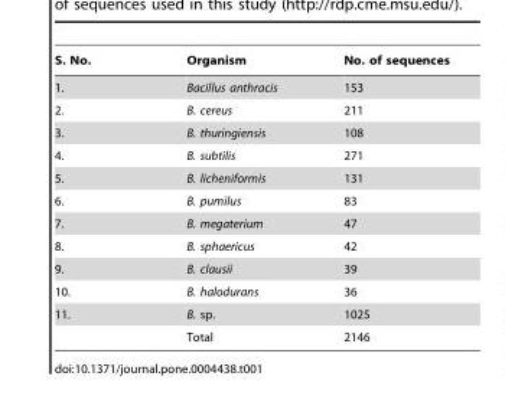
<table><thead><tr><td>S. No.</td><td>Organism</td><td>No. of sequences</td></tr></thead><tbody><tr><td>1.</td><td>Bacillus anthracis</td><td>153</td></tr><tr><td>2.</td><td>B. cereus</td><td>211</td></tr><tr><td>3.</td><td>B. thuringiensis</td><td>108</td></tr><tr><td>4.</td><td>B. subtilis</td><td>271</td></tr><tr><td>5.</td><td>B. licheniformis</td><td>131</td></tr><tr><td>6.</td><td>B. pumilus</td><td>83</td></tr><tr><td>7.</td><td>B. megaterium</td><td>47</td></tr><tr><td>8.</td><td>B. sphaericus</td><td>42</td></tr><tr><td>9.</td><td>B. clausii</td><td>39</td></tr><tr><td>10.</td><td>B. halodurans</td><td>36</td></tr><tr><td rowspan="2">11.</td><td>B. sp.</td><td>1025</td></tr><tr><td>Total</td><td>2146</td></tr></tbody></table>